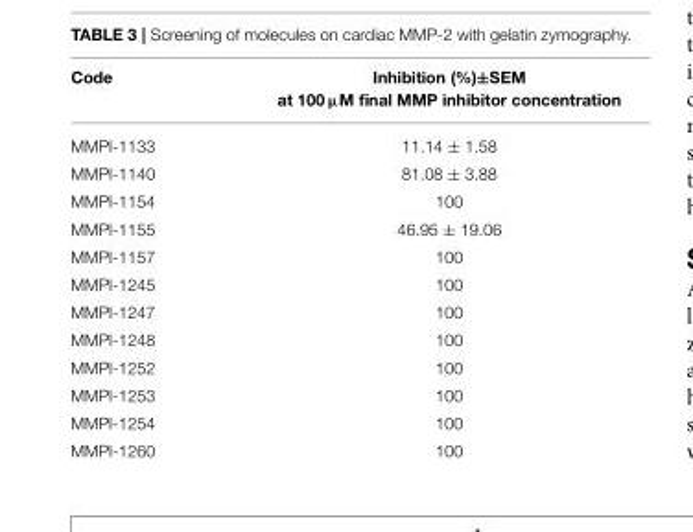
<table><thead><tr><td>Code</td><td>Inhibition (%)±SEM at 100 µM final MMP inhibitor concentration</td></tr></thead><tbody><tr><td>MMPI-1133</td><td>11.14 ± 1.58</td></tr><tr><td>MMPI-1140</td><td>81.08 ± 3.88</td></tr><tr><td>MMPI-1154</td><td>100</td></tr><tr><td>MMPI-1155</td><td>46.95 ± 19.06</td></tr><tr><td>MMPI-1157</td><td>100</td></tr><tr><td>MMPI-1245</td><td>100</td></tr><tr><td>MMPI-1247</td><td>100</td></tr><tr><td>MMPI-1248</td><td>100</td></tr><tr><td>MMPI-1252</td><td>100</td></tr><tr><td>MMPI-1253</td><td>100</td></tr><tr><td>MMPI-1254</td><td>100</td></tr><tr><td>MMPI-1260</td><td>100</td></tr></tbody></table>